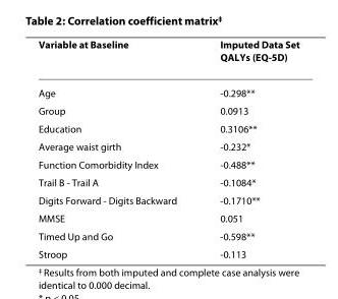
<table><thead><tr><td>Variable at Baseline</td><td>Imputed Data Set QALYs (EQ-5D)</td></tr></thead><tbody><tr><td>Age</td><td>-0.298**</td></tr><tr><td>Group</td><td>0.0913</td></tr><tr><td>Education</td><td>0.3106**</td></tr><tr><td>Average waist girth</td><td>-0.232*</td></tr><tr><td>Function Comorbidity Index</td><td>-0.488**</td></tr><tr><td>Trail B - Trail A</td><td>-0.1084*</td></tr><tr><td>Digits Forward - Digits Backward</td><td>-0.1710**</td></tr><tr><td>MMSE</td><td>0.051</td></tr><tr><td>Timed Up and Go</td><td>-0.598**</td></tr><tr><td>Stroop</td><td>-0.113</td></tr></tbody></table>